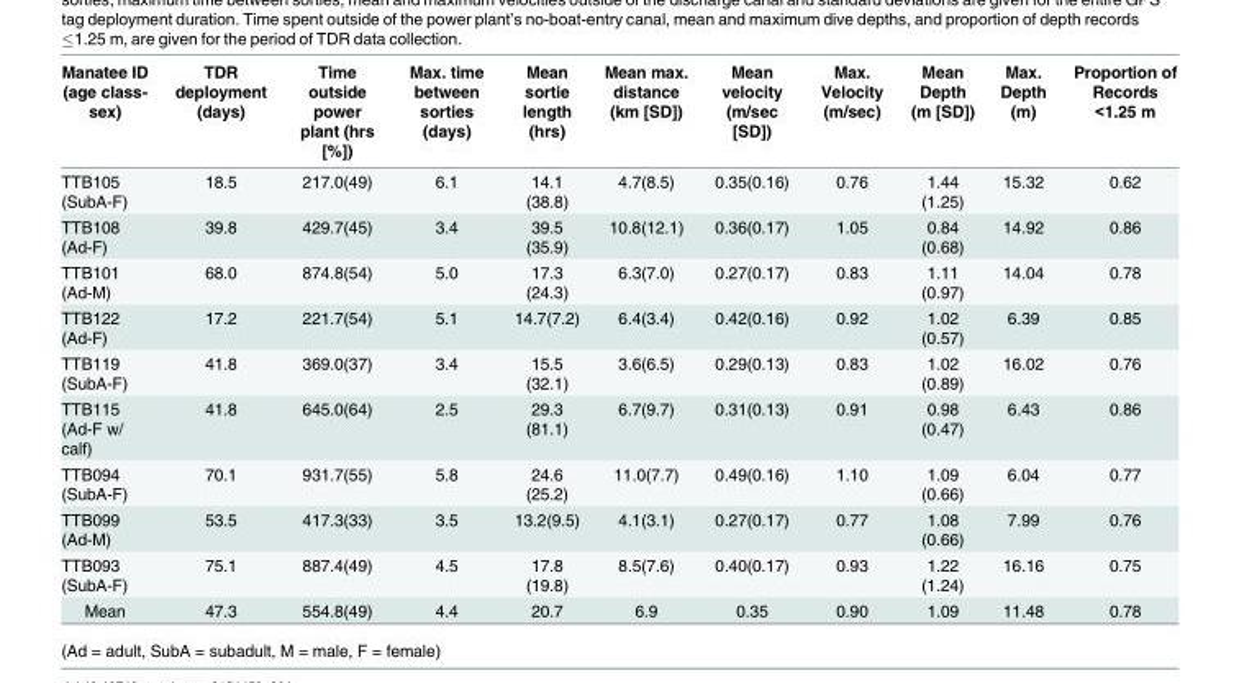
<table><thead><tr><td>Manatee ID (age class- sex)</td><td>TDR deployment (days)</td><td>Time outside power plant (hrs [%])</td><td>Max. time between sorties (days)</td><td>Mean sortie length (hrs)</td><td>Mean max. distance (km [SD])</td><td>Mean velocity (m/sec [SD])</td><td>Max. Velocity (m/sec)</td><td>Mean Depth (m [SD])</td><td>Max. Depth (m)</td><td>Proportion of Records &lt;1.25 m</td></tr></thead><tbody><tr><td>TTB105 (SubA-F)</td><td>18.5</td><td>217.0(49)</td><td>6.1</td><td>14.1 (38.8)</td><td>4.7(8.5)</td><td>0.35(0.16)</td><td>0.76</td><td>1.44 (1.25)</td><td>15.32</td><td>0.62</td></tr><tr><td>TTB108 (Ad-F)</td><td>39.8</td><td>429.7(45)</td><td>3.4</td><td>39.5 (35.9)</td><td>10.8(12.1)</td><td>0.36(0.17)</td><td>1.05</td><td>0.84 (0.68)</td><td>14.92</td><td>0.86</td></tr><tr><td>TTB101 (Ad-M)</td><td>68.0</td><td>874.8(54)</td><td>5.0</td><td>17.3 (24.3)</td><td>6.3(7.0)</td><td>0.27(0.17)</td><td>0.83</td><td>1.11 (0.97)</td><td>14.04</td><td>0.78</td></tr><tr><td>TTB122 (Ad-F)</td><td>17.2</td><td>221.7(54)</td><td>5.1</td><td>14.7(7.2)</td><td>6.4(3.4)</td><td>0.42(0.16)</td><td>0.92</td><td>1.02 (0.57)</td><td>6.39</td><td>0.85</td></tr><tr><td>TTB119 (SubA-F)</td><td>41.8</td><td>369.0(37)</td><td>3.4</td><td>15.5 (32.1)</td><td>3.6(6.5)</td><td>0.29(0.13)</td><td>0.83</td><td>1.02 (0.89)</td><td>16.02</td><td>0.76</td></tr><tr><td>TTB115 (Ad-F w/ calf)</td><td>41.8</td><td>645.0(64)</td><td>2.5</td><td>29.3 (81.1)</td><td>6.7(9.7)</td><td>0.31(0.13)</td><td>0.91</td><td>0.98 (0.47)</td><td>6.43</td><td>0.86</td></tr><tr><td>TTB094 (SubA-F)</td><td>70.1</td><td>931.7(55)</td><td>5.8</td><td>24.6 (25.2)</td><td>11.0(7.7)</td><td>0.49(0.16)</td><td>1.10</td><td>1.09 (0.66)</td><td>6.04</td><td>0.77</td></tr><tr><td>TTB099 (Ad-M)</td><td>53.5</td><td>417.3(33)</td><td>3.5</td><td>13.2(9.5)</td><td>4.1(3.1)</td><td>0.27(0.17)</td><td>0.77</td><td>1.08 (0.66)</td><td>7.99</td><td>0.76</td></tr><tr><td>TTB093 (SubA-F)</td><td>75.1</td><td>887.4(49)</td><td>4.5</td><td>17.8 (19.8)</td><td>8.5(7.6)</td><td>0.40(0.17)</td><td>0.93</td><td>1.22 (1.24)</td><td>16.16</td><td>0.75</td></tr><tr><td>Mean</td><td>47.3</td><td>554.8(49)</td><td>4.4</td><td>20.7</td><td>6.9</td><td>0.35</td><td>0.90</td><td>1.09</td><td>11.48</td><td>0.78</td></tr></tbody></table>